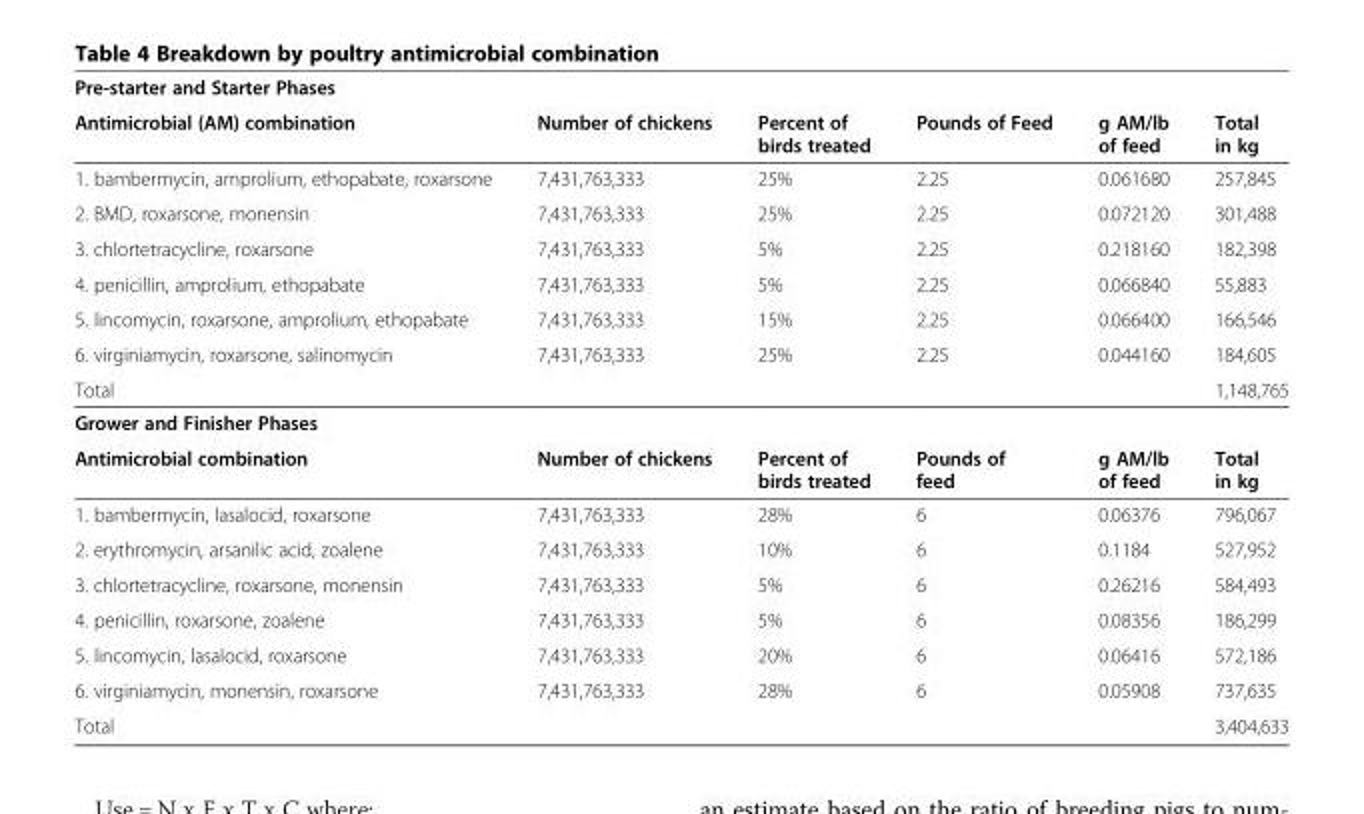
<table><tbody><tr><td colspan="6">Pre-starter and Starter Phases</td></tr><tr><td>Antimicrobial (AM) combination</td><td>Number of chickens</td><td>Percent of birds treated</td><td>Pounds of Feed</td><td>g AM/lb of feed</td><td>Total in kg</td></tr><tr><td>1. bambermycin, amprolium, ethopabate, roxarsone</td><td>7,431,763,333</td><td>25%</td><td>2.25</td><td>0.061680</td><td>257,845</td></tr><tr><td>2. BMD, roxarsone, monensin</td><td>7,431,763,333</td><td>25%</td><td>2.25</td><td>0.072120</td><td>301,488</td></tr><tr><td>3. chlortetracycline, roxarsone</td><td>7,431,763,333</td><td>5%</td><td>2.25</td><td>0.218160</td><td>182,398</td></tr><tr><td>4. penicillin, amprolium, ethopabate</td><td>7,431,763,333</td><td>5%</td><td>2.25</td><td>0.066840</td><td>55,883</td></tr><tr><td>5. lincomycin, roxarsone, amprolium, ethopabate</td><td>7,431,763,333</td><td>15%</td><td>2.25</td><td>0.066400</td><td>166,546</td></tr><tr><td>6. virginiamycin, roxarsone, salinomycin</td><td>7,431,763,333</td><td>25%</td><td>2.25</td><td>0.044160</td><td>184,605</td></tr><tr><td>Total</td><td></td><td></td><td></td><td></td><td>1,148,765</td></tr><tr><td colspan="6">Grower and Finisher Phases</td></tr><tr><td>Antimicrobial combination</td><td>Number of chickens</td><td>Percent of birds treated</td><td>Pounds of feed</td><td>g AM/lb of feed</td><td>Total in kg</td></tr><tr><td>1. bambermycin, lasalocid, roxarsone</td><td>7,431,763,333</td><td>28%</td><td>6</td><td>0.06376</td><td>796,067</td></tr><tr><td>2. erythromycin, arsanilic acid, zoalene</td><td>7,431,763,333</td><td>10%</td><td>6</td><td>0.1184</td><td>527,952</td></tr><tr><td>3. chlortetracycline, roxarsone, monensin</td><td>7,431,763,333</td><td>5%</td><td>6</td><td>0.26216</td><td>584,493</td></tr><tr><td>4. penicillin, roxarsone, zoalene</td><td>7,431,763,333</td><td>5%</td><td>6</td><td>0.08356</td><td>186,299</td></tr><tr><td>5. lincomycin, lasalocid, roxarsone</td><td>7,431,763,333</td><td>20%</td><td>6</td><td>0.06416</td><td>572,186</td></tr><tr><td>6. virginiamycin, monensin, roxarsone</td><td>7,431,763,333</td><td>28%</td><td>6</td><td>0.05908</td><td>737,635</td></tr><tr><td>Total</td><td></td><td></td><td></td><td></td><td>3,404,633</td></tr></tbody></table>